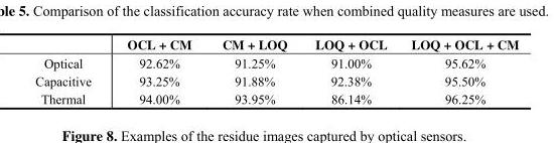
<table><thead><tr><td></td><td>OCL + CM</td><td>CM + LOQ</td><td>LOQ + OCL</td><td>LOQ + OCL + CM</td></tr></thead><tbody><tr><td>Optical</td><td>92.62%</td><td>91.25%</td><td>91.00%</td><td>95.62%</td></tr><tr><td>Capacitive</td><td>93.25%</td><td>91.88%</td><td>92.38%</td><td>95.50%</td></tr><tr><td>Thermal</td><td>94.00%</td><td>93.95%</td><td>86.14%</td><td>96.25%</td></tr></tbody></table>